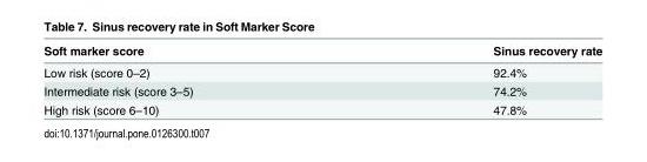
<table><thead><tr><td>Soft marker score</td><td>Sinus recovery rate</td></tr></thead><tbody><tr><td>Low risk (score 0–2)</td><td>92.4%</td></tr><tr><td>Intermediate risk (score 3–5)</td><td>74.2%</td></tr><tr><td>High risk (score 6–10)</td><td>47.8%</td></tr></tbody></table>